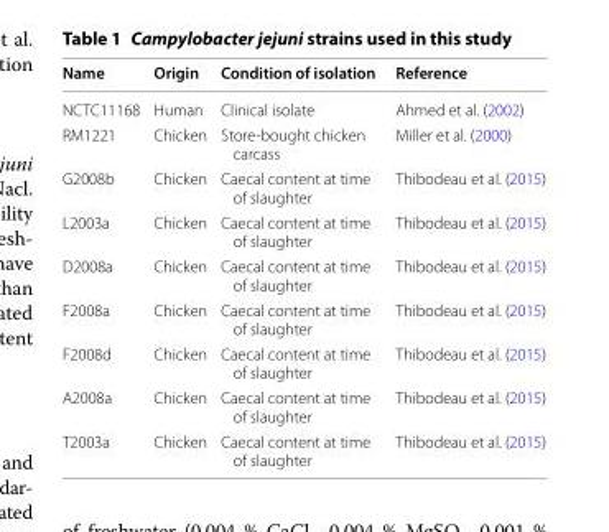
<table><thead><tr><td>Name</td><td>Origin</td><td>Condition of isolation</td><td>Reference</td></tr></thead><tbody><tr><td>NCTC11168</td><td>Human</td><td>Clinical isolate</td><td>Ahmed et al. (2002)</td></tr><tr><td>RM1221</td><td>Chicken</td><td>Store-bought chicken carcass</td><td>Miller et al. (2000)</td></tr><tr><td>G2008b</td><td>Chicken</td><td>Caecal content at time of slaughter</td><td>Thibodeau et al. (2015)</td></tr><tr><td>L2003a</td><td>Chicken</td><td>Caecal content at time of slaughter</td><td>Thibodeau et al. (2015)</td></tr><tr><td>D2008a</td><td>Chicken</td><td>Caecal content at time of slaughter</td><td>Thibodeau et al. (2015)</td></tr><tr><td>F2008a</td><td>Chicken</td><td>Caecal content at time of slaughter</td><td>Thibodeau et al. (2015)</td></tr><tr><td>F2008d</td><td>Chicken</td><td>Caecal content at time of slaughter</td><td>Thibodeau et al. (2015)</td></tr><tr><td>A2008a</td><td>Chicken</td><td>Caecal content at time of slaughter</td><td>Thibodeau et al. (2015)</td></tr><tr><td>T2003a</td><td>Chicken</td><td>Caecal content at time of slaughter</td><td>Thibodeau et al. (2015)</td></tr></tbody></table>